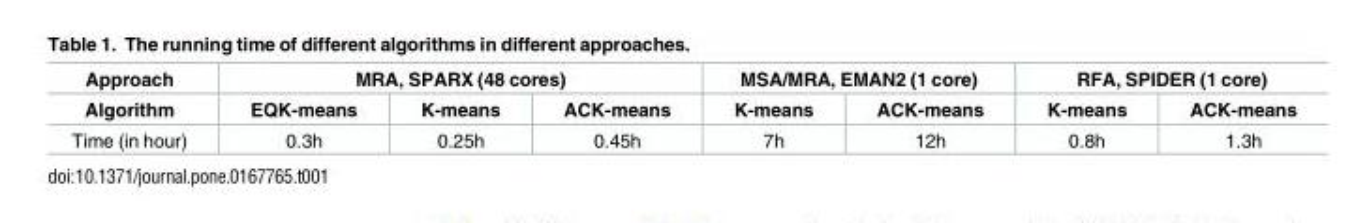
<table><thead><tr><td rowspan="2">Approach Algorithm</td><td colspan="3">MRA, SPARX (48 cores)</td><td colspan="2">MSA/MRA, EMAN2 (1 core)</td><td colspan="2">RFA, SPIDER (1 core)</td></tr><tr><td>EQK-means</td><td>K-means</td><td>ACK-means</td><td>K-means</td><td>ACK-means</td><td>K-means</td><td>ACK-means</td></tr></thead><tbody><tr><td>Time (in hour)</td><td>0.3h</td><td>0.25h</td><td>0.45h</td><td>7h</td><td>12h</td><td>0.8h</td><td>1.3h</td></tr></tbody></table>